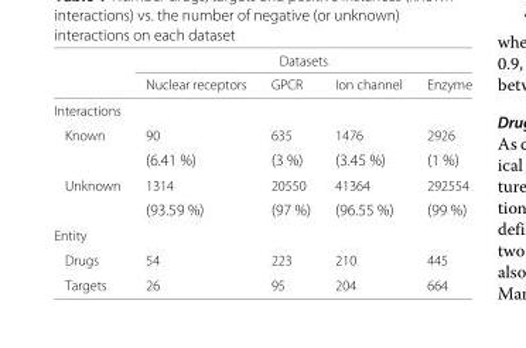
<table><thead><tr><td rowspan="2"></td><td colspan="4">Datasets</td></tr><tr><td>Nuclear receptors</td><td>GPCR</td><td>Ion channel</td><td>Enzyme</td></tr></thead><tbody><tr><td colspan="5">Interactions</td></tr><tr><td rowspan="2">Known</td><td>90</td><td>635</td><td>1476</td><td>2926</td></tr><tr><td>(6.41 %)</td><td>(3 %)</td><td>(3.45 %)</td><td>(1 %)</td></tr><tr><td rowspan="2">Unknown</td><td>1314</td><td>20550</td><td>41364</td><td>292554</td></tr><tr><td>(93.59 %)</td><td>(97 %)</td><td>(96.55 %)</td><td>(99 %)</td></tr><tr><td colspan="5">Entity</td></tr><tr><td>Drugs</td><td>54</td><td>223</td><td>210</td><td>445</td></tr><tr><td>Targets</td><td>26</td><td>95</td><td>204</td><td>664</td></tr></tbody></table>